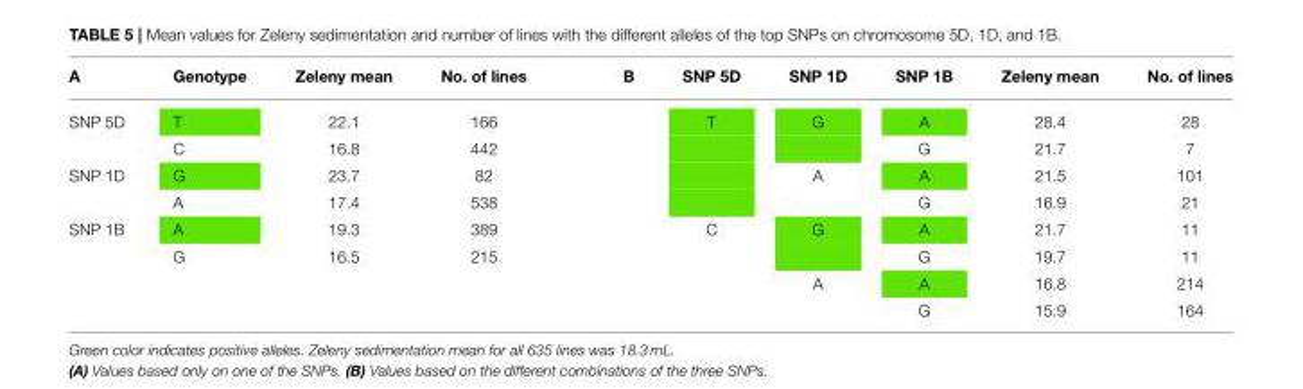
<table><thead><tr><td>A</td><td>Genotype</td><td>Zeleny mean</td><td>No. of lines</td><td>B</td><td>SNP 5D</td><td>SNP 1D</td><td>SNP 1B</td><td>Zeleny mean</td><td>No. of lines</td></tr></thead><tbody><tr><td rowspan="2">SNP 5D</td><td>T</td><td>22.1</td><td>166</td><td></td><td>T</td><td>G</td><td>A</td><td>28.4</td><td>28</td></tr><tr><td>C</td><td>16.8</td><td>442</td><td></td><td></td><td></td><td>G</td><td>21.7</td><td>7</td></tr><tr><td rowspan="2">SNP 1D</td><td>G</td><td>23.7</td><td>82</td><td></td><td></td><td>A</td><td>A</td><td>21.5</td><td>101</td></tr><tr><td>A</td><td>17.4</td><td>538</td><td></td><td></td><td></td><td>G</td><td>16.9</td><td>21</td></tr><tr><td rowspan="4">SNP 1B</td><td>A</td><td>19.3</td><td>389</td><td></td><td>C</td><td>G</td><td>A</td><td>21.7</td><td>11</td></tr><tr><td>G</td><td>16.5</td><td>215</td><td></td><td></td><td></td><td>G</td><td>19.7</td><td>11</td></tr><tr><td></td><td></td><td></td><td></td><td></td><td>A</td><td>A</td><td>16.8</td><td>214</td></tr><tr><td></td><td></td><td></td><td></td><td></td><td></td><td>G</td><td>15.9</td><td>164</td></tr></tbody></table>